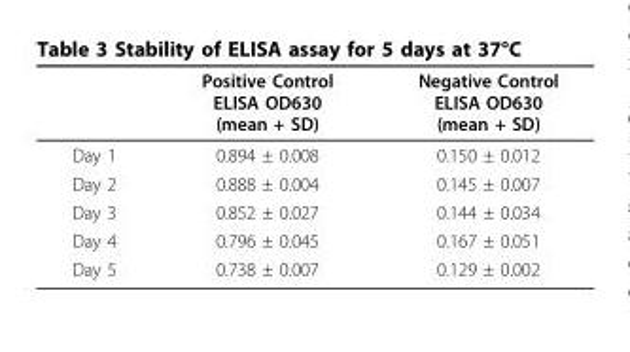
<table><thead><tr><td></td><td>Positive Control ELISA OD630 (mean + SD)</td><td>Negative Control ELISA OD630 (mean + SD)</td></tr></thead><tbody><tr><td>Day 1</td><td>0.894 ± 0.008</td><td>0.150 ± 0.012</td></tr><tr><td>Day 2</td><td>0.888 ± 0.004</td><td>0.145 ± 0.007</td></tr><tr><td>Day 3</td><td>0.852 ± 0.027</td><td>0.144 ± 0.034</td></tr><tr><td>Day 4</td><td>0.796 ± 0.045</td><td>0.167 ± 0.051</td></tr><tr><td>Day 5</td><td>0.738 ± 0.007</td><td>0.129 ± 0.002</td></tr></tbody></table>